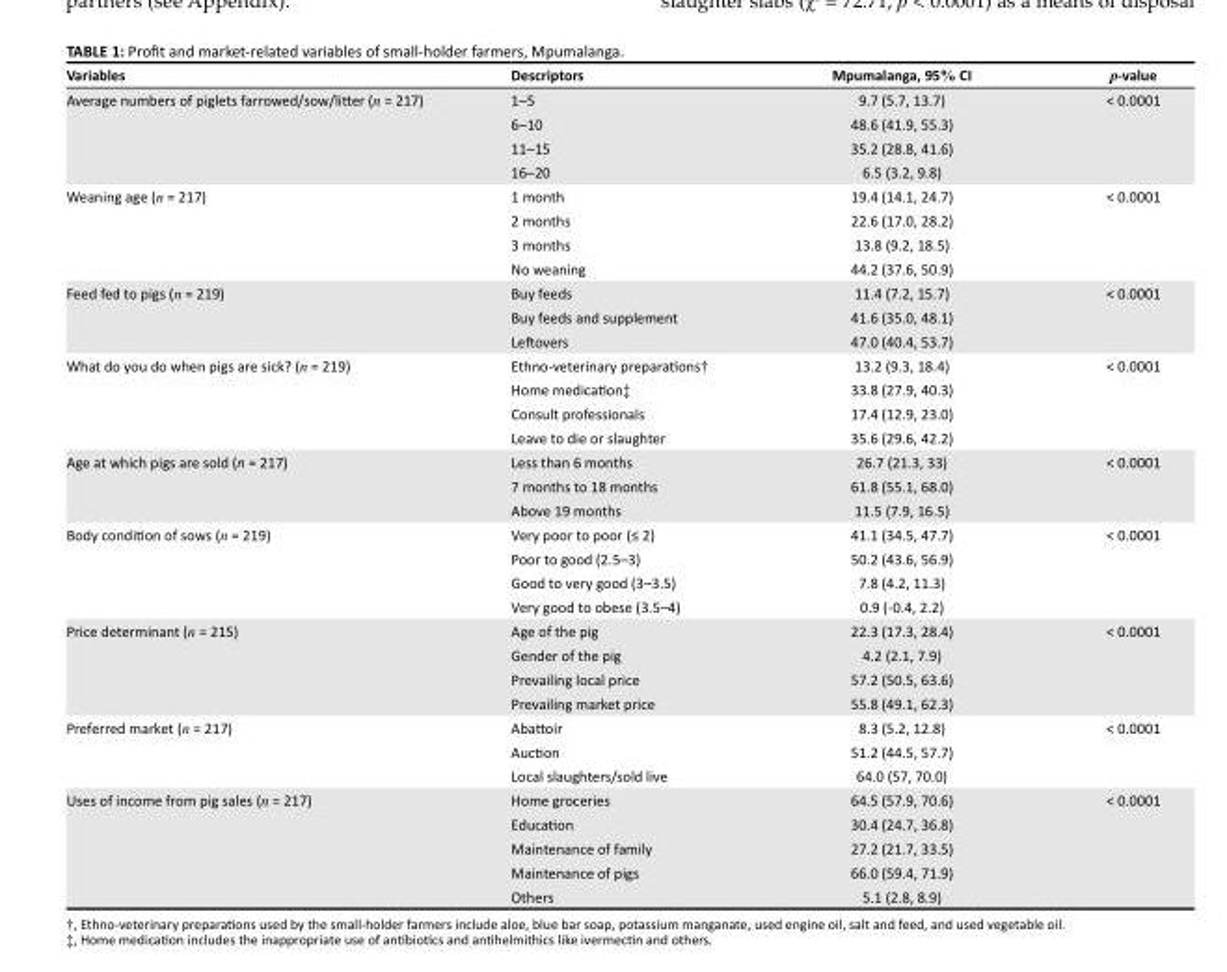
<table><thead><tr><td>Variables</td><td>Descriptors</td><td>Mpumalanga, 95% CI</td><td>p-value</td></tr></thead><tbody><tr><td rowspan="4">Average numbers of piglets farrowed/sow/litter (n = 217)</td><td>1–5</td><td>9.7 (5.7, 13.7)</td><td>&lt; 0.0001</td></tr><tr><td>6–10</td><td>48.6 (41.9, 55.3)</td><td></td></tr><tr><td>11–15</td><td>35.2 (28.8, 41.6)</td><td></td></tr><tr><td>16–20</td><td>6.5 (3.2, 9.8)</td><td></td></tr><tr><td rowspan="4">Weaning age (n = 217)</td><td>1 month</td><td>19.4 (14.1, 24.7)</td><td>&lt; 0.0001</td></tr><tr><td>2 months</td><td>22.6 (17.0, 28.2)</td><td></td></tr><tr><td>3 months</td><td>13.8 (9.2, 18.5)</td><td></td></tr><tr><td>No weaning</td><td>44.2 (37.6, 50.9)</td><td></td></tr><tr><td rowspan="3">Feed fed to pigs (n = 219)</td><td>Buy feeds</td><td>11.4 (7.2, 15.7)</td><td>&lt; 0.0001</td></tr><tr><td>Buy feeds and supplement</td><td>41.6 (35.0, 48.1)</td><td></td></tr><tr><td>Leftovers</td><td>47.0 (40.4, 53.7)</td><td></td></tr><tr><td rowspan="4">What do you do when pigs are sick? (n = 219)</td><td>Ethno-veterinary preparations†</td><td>13.2 (9.3, 18.4)</td><td>&lt; 0.0001</td></tr><tr><td>Home medication‡</td><td>33.8 (27.9, 40.3)</td><td></td></tr><tr><td>Consult professionals</td><td>17.4 (12.9, 23.0)</td><td></td></tr><tr><td>Leave to die or slaughter</td><td>35.6 (29.6, 42.2)</td><td></td></tr><tr><td rowspan="3">Age at which pigs are sold (n = 217)</td><td>Less than 6 months</td><td>26.7 (21.3, 33)</td><td>&lt; 0.0001</td></tr><tr><td>7 months to 18 months</td><td>61.8 (55.1, 68.0)</td><td></td></tr><tr><td>Above 19 months</td><td>11.5 (7.9, 16.5)</td><td></td></tr><tr><td rowspan="4">Body condition of sows (n = 219)</td><td>Very poor to poor (≤ 2)</td><td>41.1 (34.5, 47.7)</td><td>&lt; 0.0001</td></tr><tr><td>Poor to good (2.5–3)</td><td>50.2 (43.6, 56.9)</td><td></td></tr><tr><td>Good to very good (3–3.5)</td><td>7.8 (4.2, 11.3)</td><td></td></tr><tr><td>Very good to obese (3.5–4)</td><td>0.9 (-0.4, 2.2)</td><td></td></tr><tr><td rowspan="4">Price determinant (n = 215)</td><td>Age of the pig</td><td>22.3 (17.3, 28.4)</td><td>&lt; 0.0001</td></tr><tr><td>Gender of the pig</td><td>4.2 (2.1, 7.9)</td><td></td></tr><tr><td>Prevailing local price</td><td>57.2 (50.5, 63.6)</td><td></td></tr><tr><td>Prevailing market price</td><td>55.8 (49.1, 62.3)</td><td></td></tr><tr><td rowspan="3">Preferred market (n = 217)</td><td>Abattoir</td><td>8.3 (5.2, 12.8)</td><td>&lt; 0.0001</td></tr><tr><td>Auction</td><td>51.2 (44.5, 57.7)</td><td></td></tr><tr><td>Local slaughters/sold live</td><td>64.0 (57, 70.0)</td><td></td></tr><tr><td rowspan="5">Uses of income from pig sales (n = 217)</td><td>Home groceries</td><td>64.5 (57.9, 70.6)</td><td>&lt; 0.0001</td></tr><tr><td>Education</td><td>30.4 (24.7, 36.8)</td><td></td></tr><tr><td>Maintenance of family</td><td>27.2 (21.7, 33.5)</td><td></td></tr><tr><td>Maintenance of pigs</td><td>66.0 (59.4, 71.9)</td><td></td></tr><tr><td>Others</td><td>5.1 (2.8, 8.9)</td><td></td></tr></tbody></table>